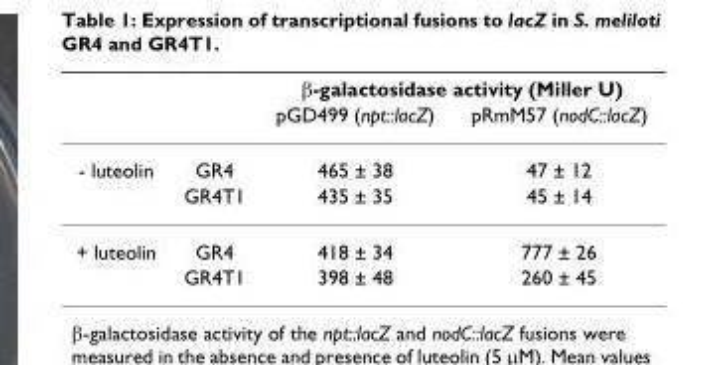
<table><thead><tr><td rowspan="2"></td><td rowspan="2"></td><td colspan="2">β-galactosidase activity (Miller U)</td></tr><tr><td>pGD499 (npt::lacZ)</td><td>pRmM57 (nodC::lacZ)</td></tr></thead><tbody><tr><td rowspan="2">- luteolin</td><td>GR4</td><td>465 ± 38</td><td>47 ± 12</td></tr><tr><td>GR4T1</td><td>435 ± 35</td><td>45 ± 14</td></tr><tr><td rowspan="2">+ luteolin</td><td>GR4</td><td>418 ± 34</td><td>777 ± 26</td></tr><tr><td>GR4T1</td><td>398 ± 48</td><td>260 ± 45</td></tr></tbody></table>